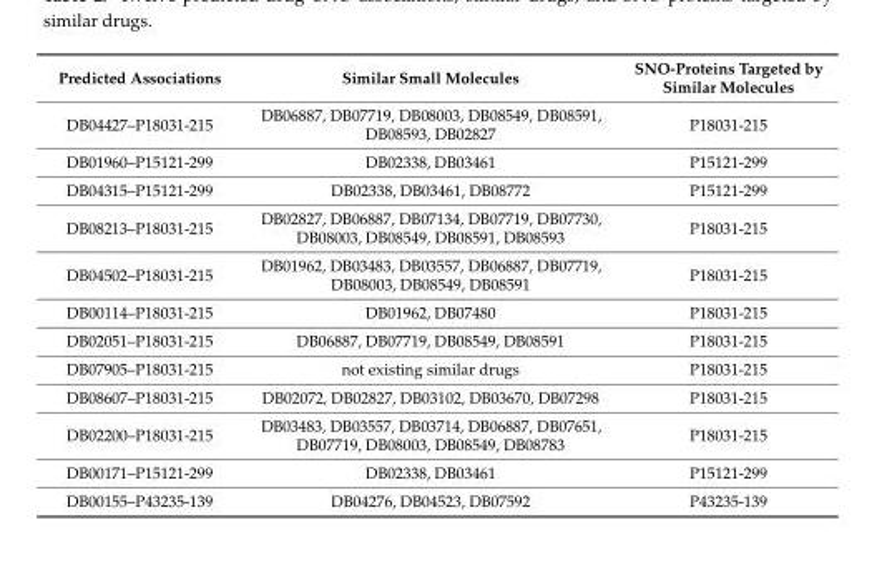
<table><thead><tr><td>Predicted Associations</td><td>Similar Small Molecules</td><td>SNO-Proteins Targeted by Similar Molecules</td></tr></thead><tbody><tr><td>DB04427–P18031-215</td><td>DB06887, DB07719, DB08003, DB08549, DB08591, DB08593, DB02827</td><td>P18031-215</td></tr><tr><td>DB01960–P15121-299</td><td>DB02338, DB03461</td><td>P15121-299</td></tr><tr><td>DB04315–P15121-299</td><td>DB02338, DB03461, DB08772</td><td>P15121-299</td></tr><tr><td>DB08213–P18031-215</td><td>DB02827, DB06887, DB07134, DB07719, DB07730, DB08003, DB08549, DB08591, DB08593</td><td>P18031-215</td></tr><tr><td>DB04502–P18031-215</td><td>DB01962, DB03483, DB03557, DB06887, DB07719, DB08003, DB08549, DB08591</td><td>P18031-215</td></tr><tr><td>DB00114–P18031-215</td><td>DB01962, DB07480</td><td>P18031-215</td></tr><tr><td>DB02051–P18031-215</td><td>DB06887, DB07719, DB08549, DB08591</td><td>P18031-215</td></tr><tr><td>DB07905–P18031-215</td><td>not existing similar drugs</td><td>P18031-215</td></tr><tr><td>DB08607–P18031-215</td><td>DB02072, DB02827, DB03102, DB03670, DB07298</td><td>P18031-215</td></tr><tr><td>DB02200–P18031-215</td><td>DB03483, DB03557, DB03714, DB06887, DB07651, DB07719, DB08003, DB08549, DB08783</td><td>P18031-215</td></tr><tr><td>DB00171–P15121-299</td><td>DB02338, DB03461</td><td>P15121-299</td></tr><tr><td>DB00155–P43235-139</td><td>DB04276, DB04523, DB07592</td><td>P43235-139</td></tr></tbody></table>